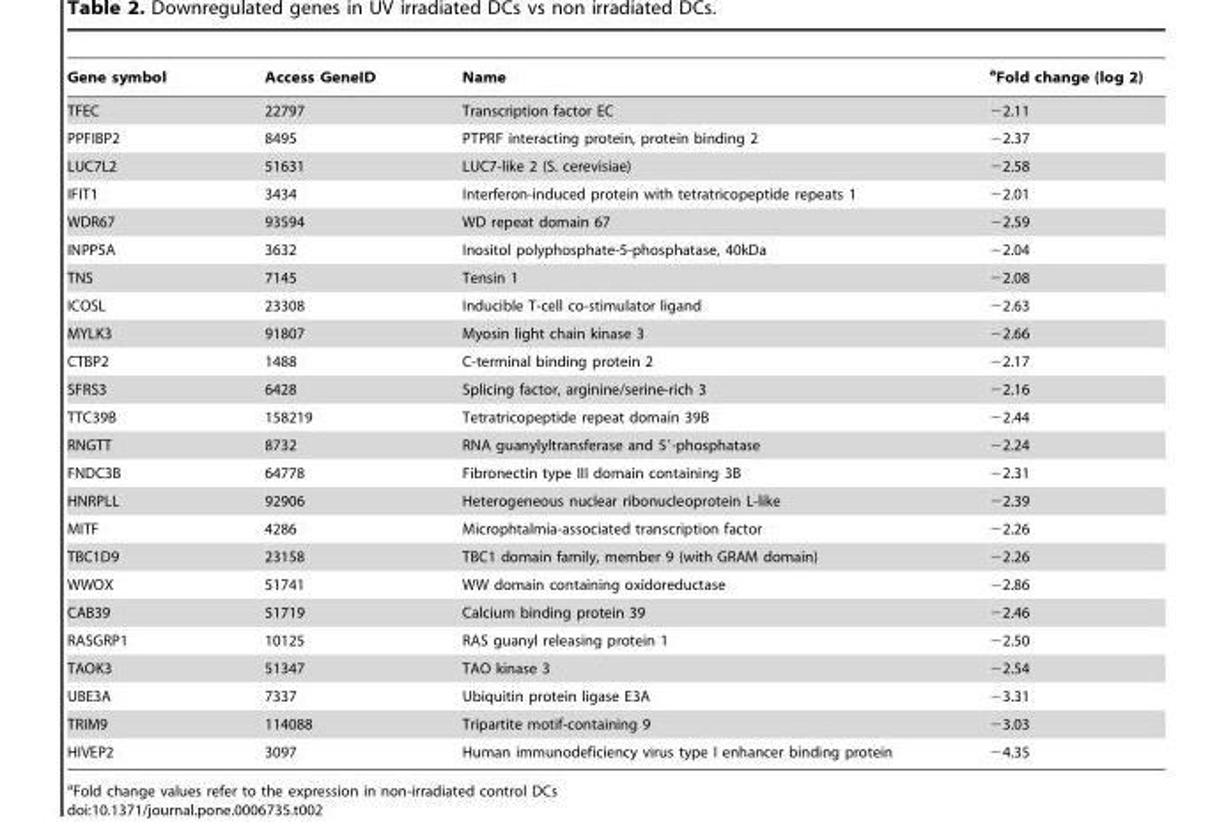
<table><thead><tr><td>Gene symbol</td><td>Access GeneID</td><td>Name</td><td>aFold change (log 2)</td></tr></thead><tbody><tr><td>TFEC</td><td>22797</td><td>Transcription factor EC</td><td>−2.11</td></tr><tr><td>PPFIBP2</td><td>8495</td><td>PTPRF interacting protein, protein binding 2</td><td>−2.37</td></tr><tr><td>LUC7L2</td><td>51631</td><td>LUC7-like 2 (S. cerevisiae)</td><td>−2.58</td></tr><tr><td>IFIT1</td><td>3434</td><td>Interferon-induced protein with tetratricopeptide repeats 1</td><td>−2.01</td></tr><tr><td>WDR67</td><td>93594</td><td>WD repeat domain 67</td><td>−2.59</td></tr><tr><td>INPP5A</td><td>3632</td><td>Inositol polyphosphate-5-phosphatase, 40kDa</td><td>−2.04</td></tr><tr><td>TNS</td><td>7145</td><td>Tensin 1</td><td>−2.08</td></tr><tr><td>ICOSL</td><td>23308</td><td>Inducible T-cell co-stimulator ligand</td><td>−2.63</td></tr><tr><td>MYLK3</td><td>91807</td><td>Myosin light chain kinase 3</td><td>−2.66</td></tr><tr><td>CTBP2</td><td>1488</td><td>C-terminal binding protein 2</td><td>−2.17</td></tr><tr><td>SFRS3</td><td>6428</td><td>Splicing factor, arginine/serine-rich 3</td><td>−2.16</td></tr><tr><td>TTC39B</td><td>158219</td><td>Tetratricopeptide repeat domain 39B</td><td>−2.44</td></tr><tr><td>RNGTT</td><td>8732</td><td>RNA guanylyltransferase and 5′-phosphatase</td><td>−2.24</td></tr><tr><td>FNDC3B</td><td>64778</td><td>Fibronectin type III domain containing 3B</td><td>−2.31</td></tr><tr><td>HNRPLL</td><td>92906</td><td>Heterogeneous nuclear ribonucleoprotein L-like</td><td>−2.39</td></tr><tr><td>MITF</td><td>4286</td><td>Microphtalmia-associated transcription factor</td><td>−2.26</td></tr><tr><td>TBC1D9</td><td>23158</td><td>TBC1 domain family, member 9 (with GRAM domain)</td><td>−2.26</td></tr><tr><td>WWOX</td><td>51741</td><td>WW domain containing oxidoreductase</td><td>−2.86</td></tr><tr><td>CAB39</td><td>51719</td><td>Calcium binding protein 39</td><td>−2.46</td></tr><tr><td>RASGRP1</td><td>10125</td><td>RAS guanyl releasing protein 1</td><td>−2.50</td></tr><tr><td>TAOK3</td><td>51347</td><td>TAO kinase 3</td><td>−2.54</td></tr><tr><td>UBE3A</td><td>7337</td><td>Ubiquitin protein ligase E3A</td><td>−3.31</td></tr><tr><td>TRIM9</td><td>114088</td><td>Tripartite motif-containing 9</td><td>−3.03</td></tr><tr><td>HIVEP2</td><td>3097</td><td>Human immunodeficiency virus type I enhancer binding protein</td><td>−4.35</td></tr></tbody></table>